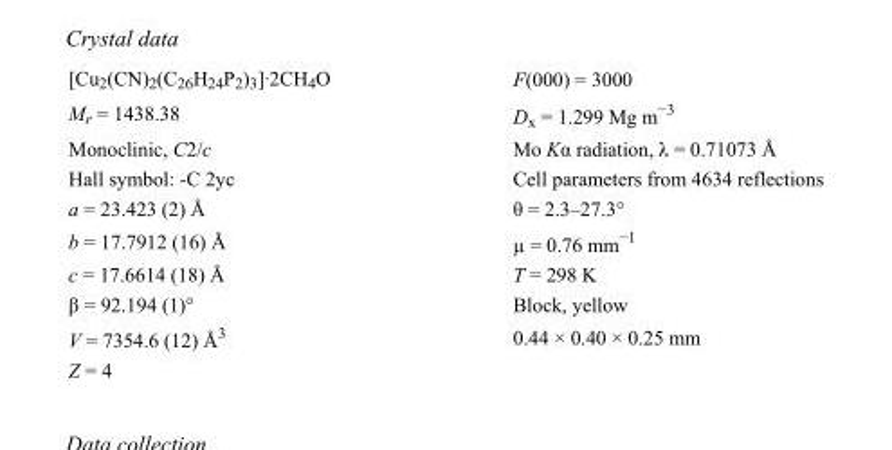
<table><tbody><tr><td>[Cu<sub>2</sub>(CN)<sub>2</sub>(C<sub>26</sub>H<sub>24</sub>P<sub>2</sub>)<sub>3</sub>]·2CH<sub>4</sub>O</td><td>F(000) = 3000</td></tr><tr><td>M<sub>r</sub> = 1438.38</td><td>D<sub>x</sub> = 1.299 Mg m<sup>−3</sup></td></tr><tr><td>Monoclinic, C2/c</td><td>Mo Kα radiation, λ = 0.71073 Å</td></tr><tr><td>Hall symbol: -C 2yc</td><td>Cell parameters from 4634 reflections</td></tr><tr><td>a = 23.423 (2) Å</td><td>θ = 2.3–27.3°</td></tr><tr><td>b = 17.7912 (16) Å</td><td>µ = 0.76 mm<sup>−1</sup></td></tr><tr><td>c = 17.6614 (18) Å</td><td>T = 298 K</td></tr><tr><td>β = 92.194 (1)°</td><td>Block, yellow</td></tr><tr><td>V = 7354.6 (12) Å<sup>3</sup></td><td>0.44 × 0.40 × 0.25 mm</td></tr><tr><td>Z = 4</td><td></td></tr></tbody></table>